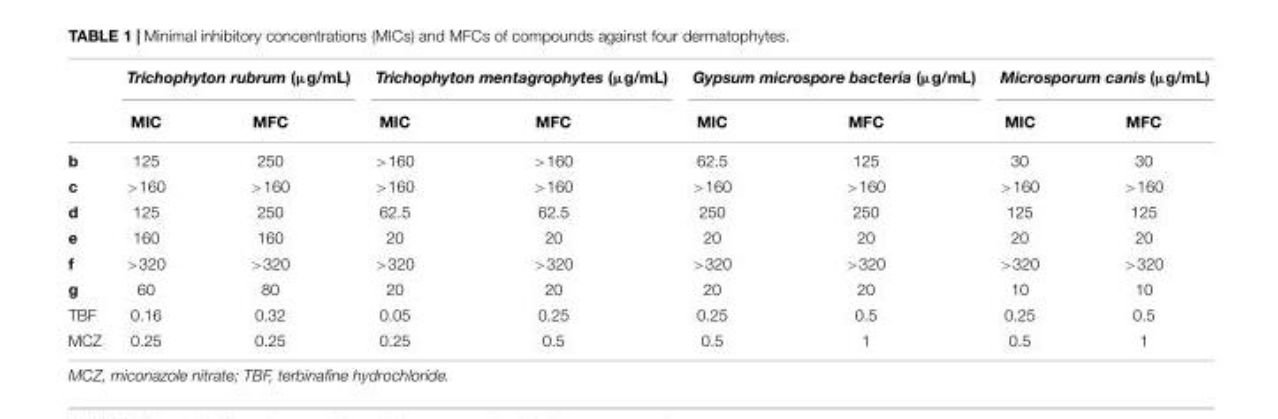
<table><thead><tr><td rowspan="2"></td><td colspan="2">Trichophyton rubrum (µg/mL)</td><td colspan="2">Trichophyton mentagrophytes (µg/mL)</td><td colspan="2">Gypsum microspore bacteria (µg/mL)</td><td colspan="2">Microsporum canis (µg/mL)</td></tr><tr><td>MIC</td><td>MFC</td><td>MIC</td><td>MFC</td><td>MIC</td><td>MFC</td><td>MIC</td><td>MFC</td></tr></thead><tbody><tr><td>b</td><td>125</td><td>250</td><td>&gt;160</td><td>&gt;160</td><td>62.5</td><td>125</td><td>30</td><td>30</td></tr><tr><td>c</td><td>&gt;160</td><td>&gt;160</td><td>&gt;160</td><td>&gt;160</td><td>&gt;160</td><td>&gt;160</td><td>&gt;160</td><td>&gt;160</td></tr><tr><td>d</td><td>125</td><td>250</td><td>62.5</td><td>62.5</td><td>250</td><td>250</td><td>125</td><td>125</td></tr><tr><td>e</td><td>160</td><td>160</td><td>20</td><td>20</td><td>20</td><td>20</td><td>20</td><td>20</td></tr><tr><td>f</td><td>&gt;320</td><td>&gt;320</td><td>&gt;320</td><td>&gt;320</td><td>&gt;320</td><td>&gt;320</td><td>&gt;320</td><td>&gt;320</td></tr><tr><td>g</td><td>60</td><td>80</td><td>20</td><td>20</td><td>20</td><td>20</td><td>10</td><td>10</td></tr><tr><td>TBF</td><td>0.16</td><td>0.32</td><td>0.05</td><td>0.25</td><td>0.25</td><td>0.5</td><td>0.25</td><td>0.5</td></tr><tr><td>MCZ</td><td>0.25</td><td>0.25</td><td>0.25</td><td>0.5</td><td>0.5</td><td>1</td><td>0.5</td><td>1</td></tr></tbody></table>